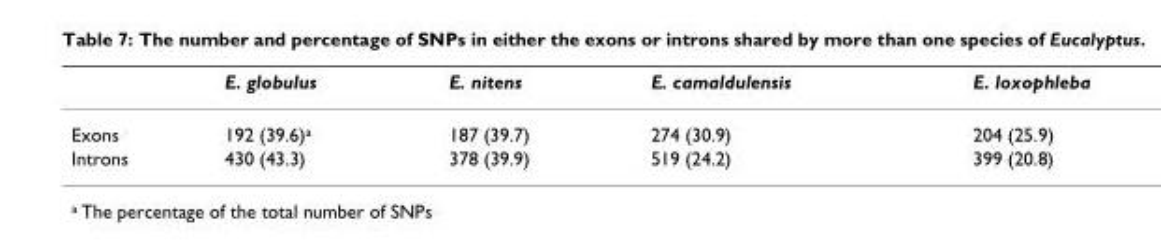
<table><thead><tr><td></td><td>E. globulus</td><td>E. nitens</td><td>E. camaldulensis</td><td>E. loxophleba</td></tr></thead><tbody><tr><td>Exons</td><td>192 (39.6)<sup>a</sup></td><td>187 (39.7)</td><td>274 (30.9)</td><td>204 (25.9)</td></tr><tr><td>Introns</td><td>430 (43.3)</td><td>378 (39.9)</td><td>519 (24.2)</td><td>399 (20.8)</td></tr></tbody></table>